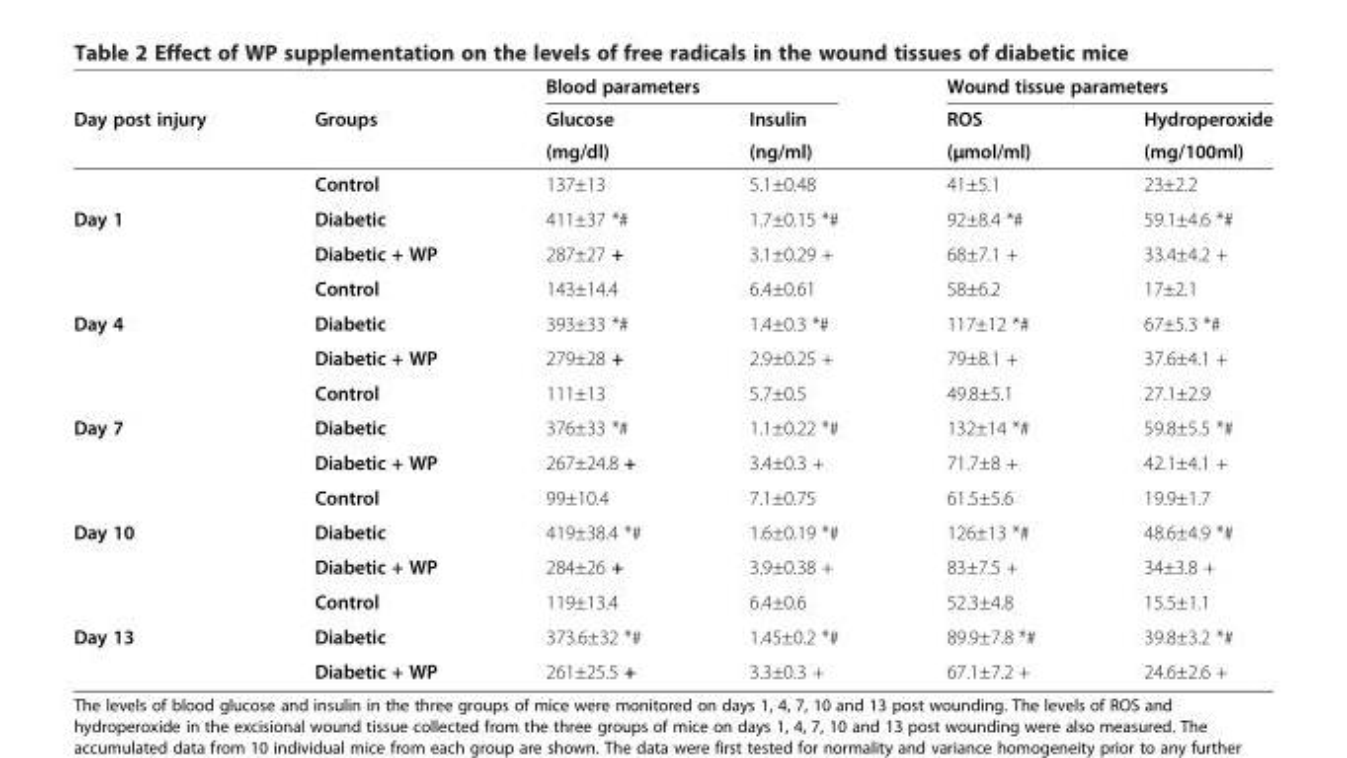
<table><thead><tr><td rowspan="3">Day post injury</td><td rowspan="3">Groups</td><td colspan="2">Blood parameters</td><td colspan="2">Wound tissue parameters</td></tr><tr><td rowspan="2">Glucose (mg/dl)</td><td rowspan="2">Insulin (ng/ml)</td><td rowspan="2">ROS (μmol/ml)</td><td rowspan="2">Hydroperoxide (mg/100ml)</td></tr><tr></tr></thead><tbody><tr><td rowspan="3">Day 1</td><td>Control</td><td>137±13</td><td>5.1±0.48</td><td>41±5.1</td><td>23±2.2</td></tr><tr><td>Diabetic</td><td>411±37 *#</td><td>1.7±0.15 *#</td><td>92±8.4 *#</td><td>59.1±4.6 *#</td></tr><tr><td>Diabetic + WP</td><td>287±27 +</td><td>3.1±0.29 +</td><td>68±7.1 +</td><td>33.4±4.2 +</td></tr><tr><td rowspan="3">Day 4</td><td>Control</td><td>143±14.4</td><td>6.4±0.61</td><td>58±6.2</td><td>17±2.1</td></tr><tr><td>Diabetic</td><td>393±33 *#</td><td>1.4±0.3 *#</td><td>117±12 *#</td><td>67±5.3 *#</td></tr><tr><td>Diabetic + WP</td><td>279±28 +</td><td>2.9±0.25 +</td><td>79±8.1 +</td><td>37.6±4.1 +</td></tr><tr><td rowspan="3">Day 7</td><td>Control</td><td>111±13</td><td>5.7±0.5</td><td>49.8±5.1</td><td>27.1±2.9</td></tr><tr><td>Diabetic</td><td>376±33 *#</td><td>1.1±0.22 *#</td><td>132±14 *#</td><td>59.8±5.5 *#</td></tr><tr><td>Diabetic + WP</td><td>267±24.8 +</td><td>3.4±0.3 +</td><td>71.7±8 +</td><td>42.1±4.1 +</td></tr><tr><td rowspan="3">Day 10</td><td>Control</td><td>99±10.4</td><td>7.1±0.75</td><td>61.5±5.6</td><td>19.9±1.7</td></tr><tr><td>Diabetic</td><td>419±38.4 *#</td><td>1.6±0.19 *#</td><td>126±13 *#</td><td>48.6±4.9 *#</td></tr><tr><td>Diabetic + WP</td><td>284±26 +</td><td>3.9±0.38 +</td><td>83±7.5 +</td><td>34±3.8 +</td></tr><tr><td rowspan="3">Day 13</td><td>Control</td><td>119±13.4</td><td>6.4±0.6</td><td>52.3±4.8</td><td>15.5±1.1</td></tr><tr><td>Diabetic</td><td>373.6±32 *#</td><td>1.45±0.2 *#</td><td>89.9±7.8 *#</td><td>39.8±3.2 *#</td></tr><tr><td>Diabetic + WP</td><td>261±25.5 +</td><td>3.3±0.3 +</td><td>67.1±7.2 +</td><td>24.6±2.6 +</td></tr></tbody></table>